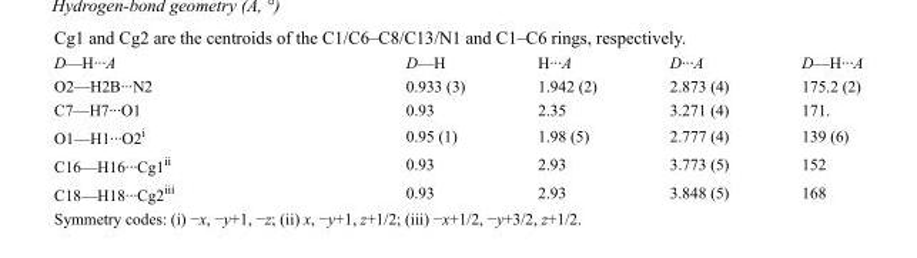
<table><tbody><tr><td>D—H···A</td><td>D—H</td><td>H···A</td><td>D···A</td><td>D—H···A</td></tr><tr><td>O2—H2B···N2</td><td>0.933 (3)</td><td>1.942 (2)</td><td>2.873 (4)</td><td>175.2 (2)</td></tr><tr><td>C7—H7···O1</td><td>0.93</td><td>2.35</td><td>3.271 (4)</td><td>171.</td></tr><tr><td>O1—H1···O2<sup>i</sup></td><td>0.95 (1)</td><td>1.98 (5)</td><td>2.777 (4)</td><td>139 (6)</td></tr><tr><td>C16—H16···Cg1<sup>ii</sup></td><td>0.93</td><td>2.93</td><td>3.773 (5)</td><td>152</td></tr><tr><td>C18—H18···Cg2<sup>iii</sup></td><td>0.93</td><td>2.93</td><td>3.848 (5)</td><td>168</td></tr></tbody></table>